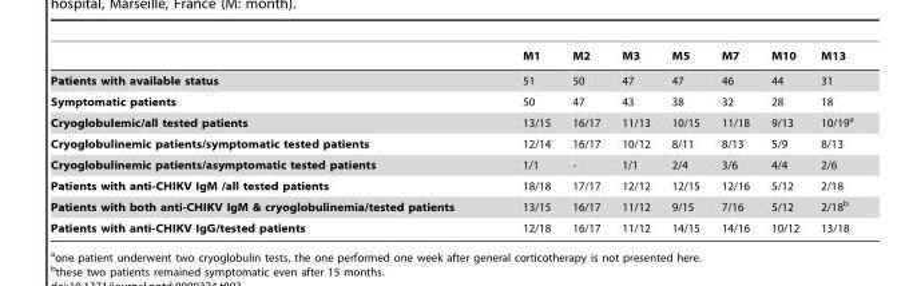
<table><thead><tr><td></td><td>M1</td><td>M2</td><td>M3</td><td>M5</td><td>M7</td><td>M10</td><td>M13</td></tr></thead><tbody><tr><td>Patients with available status</td><td>51</td><td>50</td><td>47</td><td>47</td><td>46</td><td>44</td><td>31</td></tr><tr><td>Symptomatic patients</td><td>50</td><td>47</td><td>43</td><td>38</td><td>32</td><td>28</td><td>18</td></tr><tr><td>Cryoglobulemic/all tested patients</td><td>13/15</td><td>16/17</td><td>11/13</td><td>10/15</td><td>11/18</td><td>9/13</td><td>10/19<sup>a</sup></td></tr><tr><td>Cryoglobulinemic patients/symptomatic tested patients</td><td>12/14</td><td>16/17</td><td>10/12</td><td>8/11</td><td>8/13</td><td>5/9</td><td>8/13</td></tr><tr><td>Cryoglobulinemic patients/asymptomatic tested patients</td><td>1/1</td><td>-</td><td>1/1</td><td>2/4</td><td>3/6</td><td>4/4</td><td>2/6</td></tr><tr><td>Patients with anti-CHIKV IgM /all tested patients</td><td>18/18</td><td>17/17</td><td>12/12</td><td>12/15</td><td>12/16</td><td>5/12</td><td>2/18</td></tr><tr><td>Patients with both anti-CHIKV IgM &amp; cryoglobulinemia/tested patients</td><td>13/15</td><td>16/17</td><td>11/12</td><td>9/15</td><td>7/16</td><td>5/12</td><td>2/18<sup>b</sup></td></tr><tr><td>Patients with anti-CHIKV IgG/tested patients</td><td>12/18</td><td>16/17</td><td>11/12</td><td>14/15</td><td>14/16</td><td>10/12</td><td>13/18</td></tr></tbody></table>